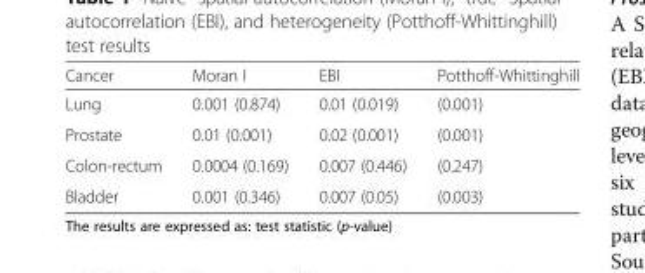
<table><thead><tr><td>Cancer</td><td>Moran I</td><td>EBI</td><td>Potthoff-Whittinghill</td></tr></thead><tbody><tr><td>Lung</td><td>0.001 (0.874)</td><td>0.01 (0.019)</td><td>(0.001)</td></tr><tr><td>Prostate</td><td>0.01 (0.001)</td><td>0.02 (0.001)</td><td>(0.001)</td></tr><tr><td>Colon-rectum</td><td>0.0004 (0.169)</td><td>0.007 (0.446)</td><td>(0.247)</td></tr><tr><td>Bladder</td><td>0.001 (0.346)</td><td>0.007 (0.05)</td><td>(0.003)</td></tr></tbody></table>